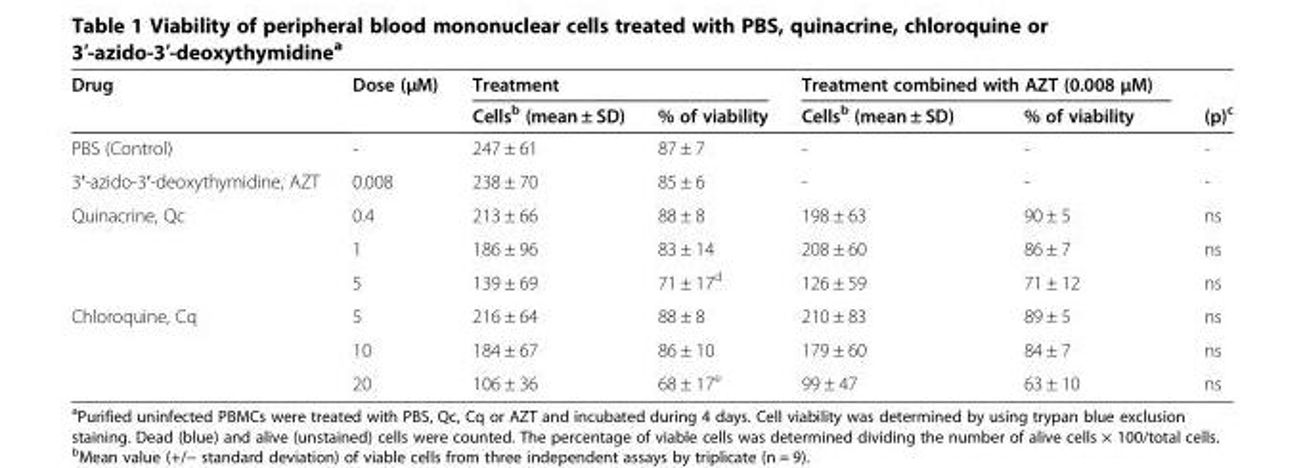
<table><thead><tr><td rowspan="2">Drug</td><td rowspan="2">Dose (μM)</td><td colspan="2">Treatment</td><td colspan="2">Treatment combined with AZT (0.008 μM)</td><td rowspan="2">(p)<sup>c</sup></td></tr><tr><td>Cells<sup>b</sup> (mean ± SD)</td><td>% of viability</td><td>Cells<sup>b</sup> (mean ± SD)</td><td>% of viability</td></tr></thead><tbody><tr><td>PBS (Control)</td><td>-</td><td>247 ± 61</td><td>87 ± 7</td><td>-</td><td>-</td><td>-</td></tr><tr><td>3′-azido-3′-deoxythymidine, AZT</td><td>0.008</td><td>238 ± 70</td><td>85 ± 6</td><td>-</td><td>-</td><td>-</td></tr><tr><td rowspan="3">Quinacrine, Qc</td><td>0.4</td><td>213 ± 66</td><td>88 ± 8</td><td>198 ± 63</td><td>90 ± 5</td><td>ns</td></tr><tr><td>1</td><td>186 ± 96</td><td>83 ± 14</td><td>208 ± 60</td><td>86 ± 7</td><td>ns</td></tr><tr><td>5</td><td>139 ± 69</td><td>71 ± 17<sup>d</sup></td><td>126 ± 59</td><td>71 ± 12</td><td>ns</td></tr><tr><td rowspan="3">Chloroquine, Cq</td><td>5</td><td>216 ± 64</td><td>88 ± 8</td><td>210 ± 83</td><td>89 ± 5</td><td>ns</td></tr><tr><td>10</td><td>184 ± 67</td><td>86 ± 10</td><td>179 ± 60</td><td>84 ± 7</td><td>ns</td></tr><tr><td>20</td><td>106 ± 36</td><td>68 ± 17<sup>e</sup></td><td>99 ± 47</td><td>63 ± 10</td><td>ns</td></tr></tbody></table>